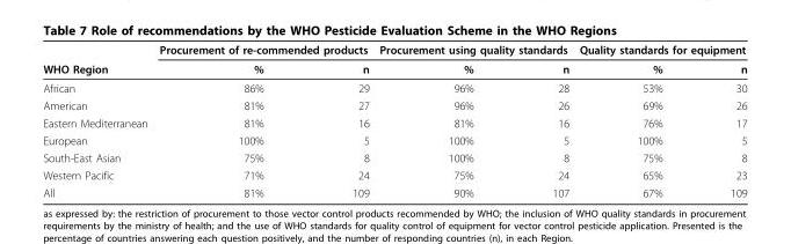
<table><thead><tr><td rowspan="2">WHO Region</td><td colspan="2">Procurement of re-commended products</td><td colspan="2">Procurement using quality standards</td><td colspan="2">Quality standards for equipment</td></tr><tr><td>%</td><td>n</td><td>%</td><td>n</td><td>%</td><td>n</td></tr></thead><tbody><tr><td>African</td><td>86%</td><td>29</td><td>96%</td><td>28</td><td>53%</td><td>30</td></tr><tr><td>American</td><td>81%</td><td>27</td><td>96%</td><td>26</td><td>69%</td><td>26</td></tr><tr><td>Eastern Mediterranean</td><td>81%</td><td>16</td><td>81%</td><td>16</td><td>76%</td><td>17</td></tr><tr><td>European</td><td>100%</td><td>5</td><td>100%</td><td>5</td><td>100%</td><td>5</td></tr><tr><td>South-East Asian</td><td>75%</td><td>8</td><td>100%</td><td>8</td><td>75%</td><td>8</td></tr><tr><td>Western Pacific</td><td>71%</td><td>24</td><td>75%</td><td>24</td><td>65%</td><td>23</td></tr><tr><td>All</td><td>81%</td><td>109</td><td>90%</td><td>107</td><td>67%</td><td>109</td></tr></tbody></table>